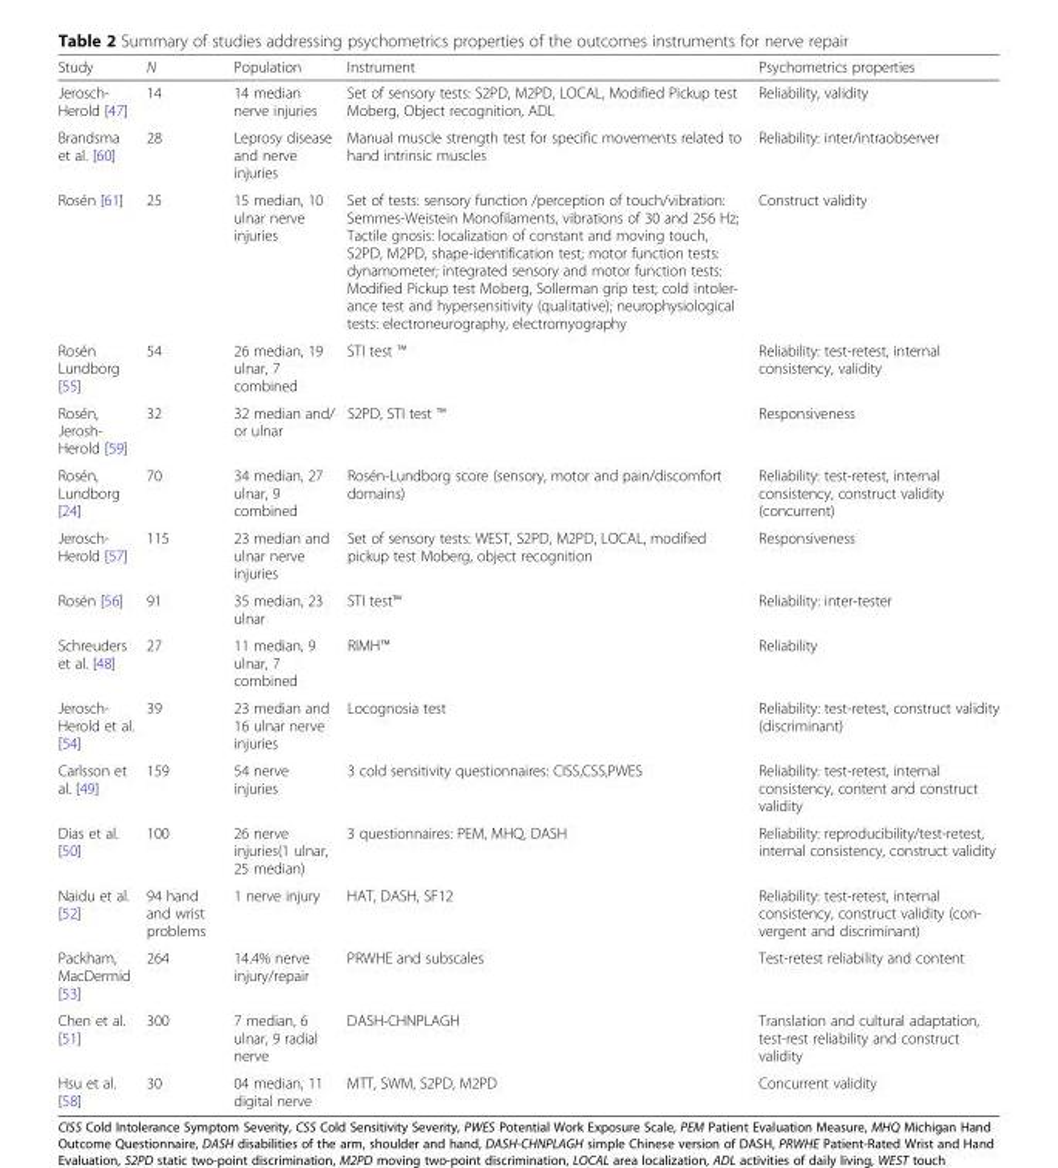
<table><thead><tr><td>Study</td><td>N</td><td>Population</td><td>Instrument</td><td>Psychometrics properties</td></tr></thead><tbody><tr><td>Jerosch- Herold [47]</td><td>14</td><td>14 median nerve injuries</td><td>Set of sensory tests: S2PD, M2PD, LOCAL, Modified Pickup test Moberg, Object recognition, ADL</td><td>Reliability, validity</td></tr><tr><td>Brandsma et al. [60]</td><td>28</td><td>Leprosy disease and nerve injuries</td><td>Manual muscle strength test for specific movements related to hand intrinsic muscles</td><td>Reliability: inter/intraobserver</td></tr><tr><td>Rosén [61]</td><td>25</td><td>15 median, 10 ulnar nerve injuries</td><td>Set of tests: sensory function /perception of touch/vibration: Semmes-Weistein Monofilaments, vibrations of 30 and 256 Hz; Tactile gnosis: localization of constant and moving touch, S2PD, M2PD, shape-identification test; motor function tests: dynamometer; integrated sensory and motor function tests: Modified Pickup test Moberg, Sollerman grip test; cold intoler- ance test and hypersensitivity (qualitative); neurophysiological tests: electroneurography, electromyography</td><td>Construct validity</td></tr><tr><td>Rosén Lundborg [55]</td><td>54</td><td>26 median, 19 ulnar, 7 combined</td><td>STI test ™</td><td>Reliability: test-retest, internal consistency, validity</td></tr><tr><td>Rosén, Jerosh- Herold [59]</td><td>32</td><td>32 median and/ or ulnar</td><td>S2PD, STI test ™</td><td>Responsiveness</td></tr><tr><td>Rosén, Lundborg [24]</td><td>70</td><td>34 median, 27 ulnar, 9 combined</td><td>Rosén-Lundborg score (sensory, motor and pain/discomfort domains)</td><td>Reliability: test-retest, internal consistency, construct validity (concurrent)</td></tr><tr><td>Jerosch- Herold [57]</td><td>115</td><td>23 median and ulnar nerve injuries</td><td>Set of sensory tests: WEST, S2PD, M2PD, LOCAL, modified pickup test Moberg, object recognition</td><td>Responsiveness</td></tr><tr><td>Rosén [56]</td><td>91</td><td>35 median, 23 ulnar</td><td>STI test™</td><td>Reliability: inter-tester</td></tr><tr><td>Schreuders et al. [48]</td><td>27</td><td>11 median, 9 ulnar, 7 combined</td><td>RIMH™</td><td>Reliability</td></tr><tr><td>Jerosch- Herold et al. [54]</td><td>39</td><td>23 median and 16 ulnar nerve injuries</td><td>Locognosia test</td><td>Reliability: test-retest, construct validity (discriminant)</td></tr><tr><td>Carlsson et al. [49]</td><td>159</td><td>54 nerve injuries</td><td>3 cold sensitivity questionnaires: CISS,CSS,PWES</td><td>Reliability: test-retest, internal consistency, content and construct validity</td></tr><tr><td>Dias et al. [50]</td><td>100</td><td>26 nerve injuries(1 ulnar, 25 median)</td><td>3 questionnaires: PEM, MHQ, DASH</td><td>Reliability: reproducibility/test-retest, internal consistency, construct validity</td></tr><tr><td>Naidu et al. [52]</td><td>94 hand and wrist problems</td><td>1 nerve injury</td><td>HAT, DASH, SF12</td><td>Reliability: test-retest, internal consistency, construct validity (con- vergent and discriminant)</td></tr><tr><td>Packham, MacDermid [53]</td><td>264</td><td>14.4% nerve injury/repair</td><td>PRWHE and subscales</td><td>Test-retest reliability and content</td></tr><tr><td>Chen et al. [51]</td><td>300</td><td>7 median, 6 ulnar, 9 radial nerve</td><td>DASH-CHNPLAGH</td><td>Translation and cultural adaptation, test-rest reliability and construct validity</td></tr><tr><td>Hsu et al. [58]</td><td>30</td><td>04 median, 11 digital nerve</td><td>MTT, SWM, S2PD, M2PD</td><td>Concurrent validity</td></tr></tbody></table>